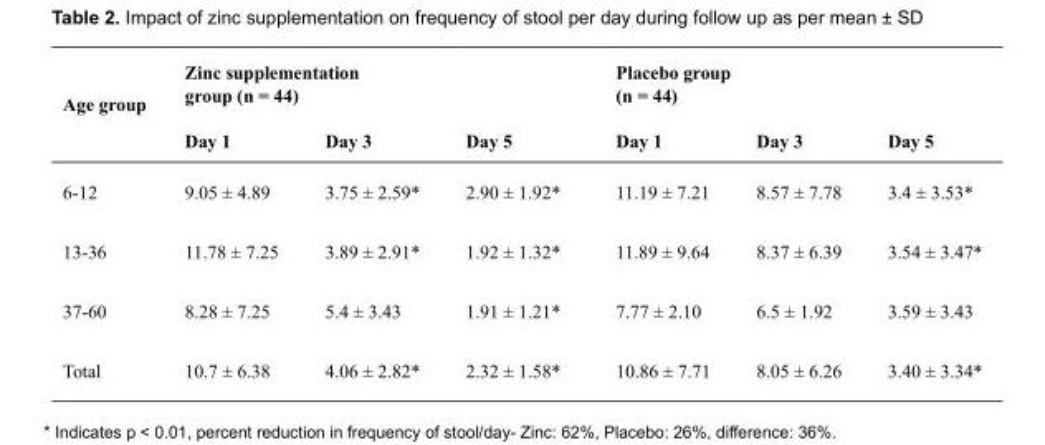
<table><thead><tr><td rowspan="2">Age group</td><td colspan="3">Zinc supplementation group (n = 44)</td><td colspan="3">Placebo group (n = 44)</td></tr><tr><td>Day 1</td><td>Day 3</td><td>Day 5</td><td>Day 1</td><td>Day 3</td><td>Day 5</td></tr></thead><tbody><tr><td>6-12</td><td>9.05 ± 4.89</td><td>3.75 ± 2.59*</td><td>2.90 ± 1.92*</td><td>11.19 ± 7.21</td><td>8.57 ± 7.78</td><td>3.4 ± 3.53*</td></tr><tr><td>13-36</td><td>11.78 ± 7.25</td><td>3.89 ± 2.91*</td><td>1.92 ± 1.32*</td><td>11.89 ± 9.64</td><td>8.37 ± 6.39</td><td>3.54 ± 3.47*</td></tr><tr><td>37-60</td><td>8.28 ± 7.25</td><td>5.4 ± 3.43</td><td>1.91 ± 1.21*</td><td>7.77 ± 2.10</td><td>6.5 ± 1.92</td><td>3.59 ± 3.43</td></tr><tr><td>Total</td><td>10.7 ± 6.38</td><td>4.06 ± 2.82*</td><td>2.32 ± 1.58*</td><td>10.86 ± 7.71</td><td>8.05 ± 6.26</td><td>3.40 ± 3.34*</td></tr></tbody></table>